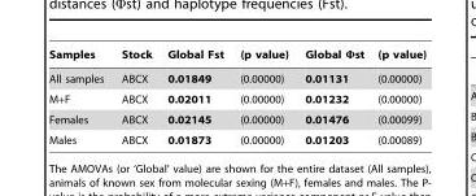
<table><thead><tr><td>Samples</td><td>Stock</td><td>Global Fst</td><td>(p value)</td><td>Global Φst</td><td>(p value)</td></tr></thead><tbody><tr><td>All samples</td><td>ABCX</td><td>0.01849</td><td>(0.00000)</td><td>0.01131</td><td>(0.00000)</td></tr><tr><td>M+F</td><td>ABCX</td><td>0.02011</td><td>(0.00000)</td><td>0.01232</td><td>(0.00000)</td></tr><tr><td>Females</td><td>ABCX</td><td>0.02145</td><td>(0.00000)</td><td>0.01476</td><td>(0.00099)</td></tr><tr><td>Males</td><td>ABCX</td><td>0.01873</td><td>(0.00000)</td><td>0.01203</td><td>(0.00089)</td></tr></tbody></table>